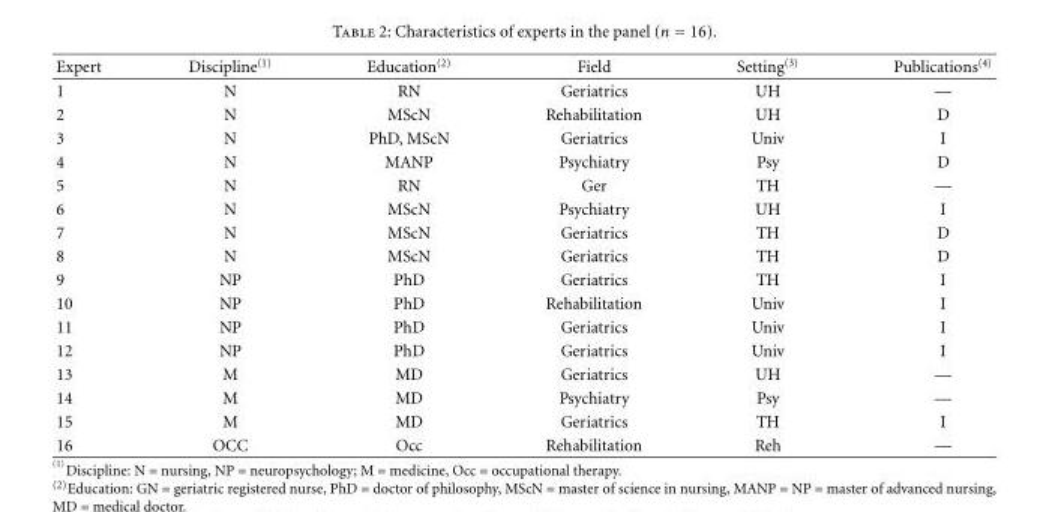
<table><thead><tr><td>Expert</td><td>Discipline<sup>(1)</sup></td><td>Education<sup>(2)</sup></td><td>Field</td><td>Setting<sup>(3)</sup></td><td>Publications<sup>(4)</sup></td></tr></thead><tbody><tr><td>1</td><td>N</td><td>RN</td><td>Geriatrics</td><td>UH</td><td>—</td></tr><tr><td>2</td><td>N</td><td>MScN</td><td>Rehabilitation</td><td>UH</td><td>D</td></tr><tr><td>3</td><td>N</td><td>PhD, MScN</td><td>Geriatrics</td><td>Univ</td><td>I</td></tr><tr><td>4</td><td>N</td><td>MANP</td><td>Psychiatry</td><td>Psy</td><td>D</td></tr><tr><td>5</td><td>N</td><td>RN</td><td>Ger</td><td>TH</td><td>—</td></tr><tr><td>6</td><td>N</td><td>MScN</td><td>Psychiatry</td><td>UH</td><td>I</td></tr><tr><td>7</td><td>N</td><td>MScN</td><td>Geriatrics</td><td>TH</td><td>D</td></tr><tr><td>8</td><td>N</td><td>MScN</td><td>Geriatrics</td><td>TH</td><td>D</td></tr><tr><td>9</td><td>NP</td><td>PhD</td><td>Geriatrics</td><td>TH</td><td>I</td></tr><tr><td>10</td><td>NP</td><td>PhD</td><td>Rehabilitation</td><td>Univ</td><td>I</td></tr><tr><td>11</td><td>NP</td><td>PhD</td><td>Geriatrics</td><td>Univ</td><td>I</td></tr><tr><td>12</td><td>NP</td><td>PhD</td><td>Geriatrics</td><td>Univ</td><td>I</td></tr><tr><td>13</td><td>M</td><td>MD</td><td>Geriatrics</td><td>UH</td><td>—</td></tr><tr><td>14</td><td>M</td><td>MD</td><td>Psychiatry</td><td>Psy</td><td>—</td></tr><tr><td>15</td><td>M</td><td>MD</td><td>Geriatrics</td><td>TH</td><td>I</td></tr><tr><td>16</td><td>OCC</td><td>Occ</td><td>Rehabilitation</td><td>Reh</td><td>—</td></tr></tbody></table>